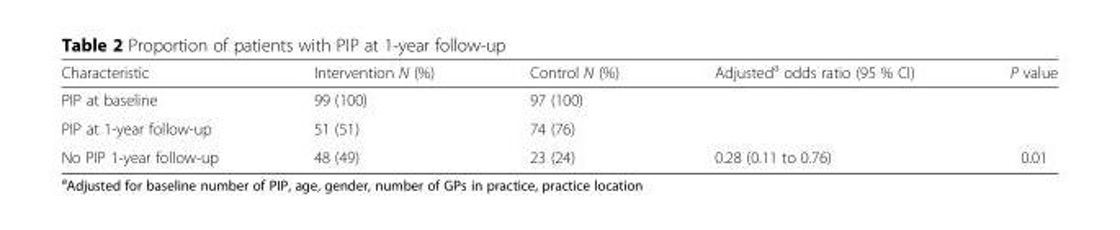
<table><thead><tr><td>Characteristic</td><td>Intervention N (%)</td><td>Control N (%)</td><td>Adjusted<sup>a</sup> odds ratio (95 % CI)</td><td>P value</td></tr></thead><tbody><tr><td>PIP at baseline</td><td>99 (100)</td><td>97 (100)</td><td></td><td rowspan="2"></td></tr><tr><td>PIP at 1-year follow-up</td><td>51 (51)</td><td>74 (76)</td><td></td></tr><tr><td>No PIP 1-year follow-up</td><td>48 (49)</td><td>23 (24)</td><td>0.28 (0.11 to 0.76)</td><td>0.01</td></tr></tbody></table>